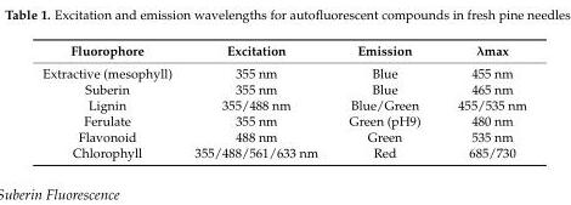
<table><thead><tr><td>Fluorophore</td><td>Excitation</td><td>Emission</td><td>λmax</td></tr></thead><tbody><tr><td>Extractive (mesophyll)</td><td>355 nm</td><td>Blue</td><td>455 nm</td></tr><tr><td>Suberin</td><td>355 nm</td><td>Blue</td><td>465 nm</td></tr><tr><td>Lignin</td><td>355/488 nm</td><td>Blue/Green</td><td>455/535 nm</td></tr><tr><td>Ferulate</td><td>355 nm</td><td>Green (pH9)</td><td>480 nm</td></tr><tr><td>Flavonoid</td><td>488 nm</td><td>Green</td><td>535 nm</td></tr><tr><td>Chlorophyll</td><td>355/488/561/633 nm</td><td>Red</td><td>685/730</td></tr></tbody></table>